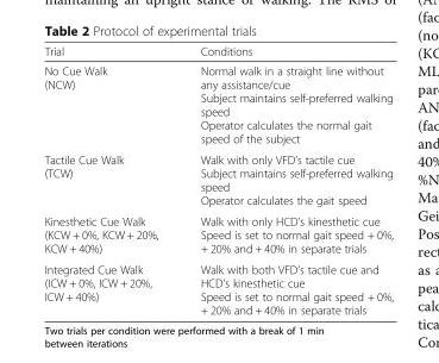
<table><thead><tr><td>Trial</td><td>Conditions</td></tr></thead><tbody><tr><td>No Cue Walk (NCW)</td><td>Normal walk in a straight line without any assistance/cue Subject maintains self-preferred walking speed Operator calculates the normal gait speed of the subject</td></tr><tr><td>Tactile Cue Walk (TCW)</td><td>Walk with only VFD’s tactile cue Subject maintains self-preferred walking speed Operator calculates the gait speed</td></tr><tr><td>Kinesthetic Cue Walk (KCW + 0%, KCW + 20%, KCW + 40%)</td><td>Walk with only HCD’s kinesthetic cue Speed is set to normal gait speed + 0%, + 20% and + 40% in separate trials</td></tr><tr><td>Integrated Cue Walk (ICW + 0%, ICW + 20%, ICW + 40%)</td><td>Walk with both VFD’s tactile cue and HCD’s kinesthetic cue Speed is set to normal gait speed + 0%, + 20% and + 40% in separate trials</td></tr></tbody></table>